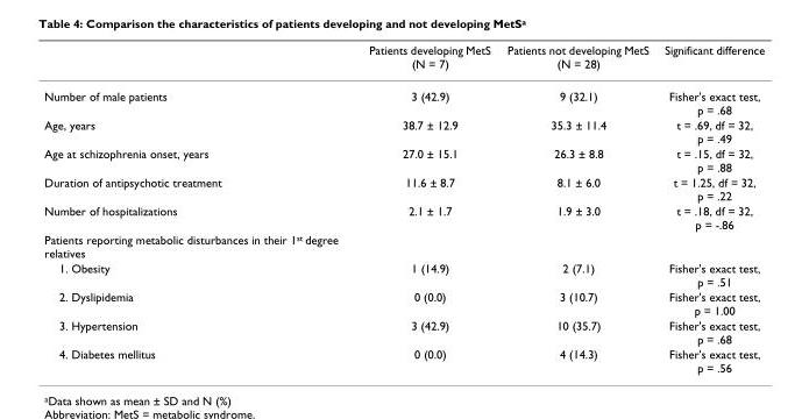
<table><thead><tr><td></td><td>Patients developing MetS (N = 7)</td><td>Patients not developing MetS (N = 28)</td><td>Significant difference</td></tr></thead><tbody><tr><td>Number of male patients</td><td>3 (42.9)</td><td>9 (32.1)</td><td>Fisher&#x27;s exact test, p = .68</td></tr><tr><td>Age, years</td><td>38.7 ± 12.9</td><td>35.3 ± 11.4</td><td>t = .69, df = 32, p = .49</td></tr><tr><td>Age at schizophrenia onset, years</td><td>27.0 ± 15.1</td><td>26.3 ± 8.8</td><td>t = .15, df = 32, p = .88</td></tr><tr><td>Duration of antipsychotic treatment</td><td>11.6 ± 8.7</td><td>8.1 ± 6.0</td><td>t = 1.25, df = 32, p = .22</td></tr><tr><td>Number of hospitalizations</td><td>2.1 ± 1.7</td><td>1.9 ± 3.0</td><td>t = .18, df = 32, p = -.86</td></tr><tr><td colspan="4">Patients reporting metabolic disturbances in their 1<sup>st</sup> degree relatives</td></tr><tr><td>1. Obesity</td><td>1 (14.9)</td><td>2 (7.1)</td><td>Fisher&#x27;s exact test, p = .51</td></tr><tr><td>2. Dyslipidemia</td><td>0 (0.0)</td><td>3 (10.7)</td><td>Fisher&#x27;s exact test, p = 1.00</td></tr><tr><td>3. Hypertension</td><td>3 (42.9)</td><td>10 (35.7)</td><td>Fisher&#x27;s exact test, p = .68</td></tr><tr><td>4. Diabetes mellitus</td><td>0 (0.0)</td><td>4 (14.3)</td><td>Fisher&#x27;s exact test, p = .56</td></tr></tbody></table>